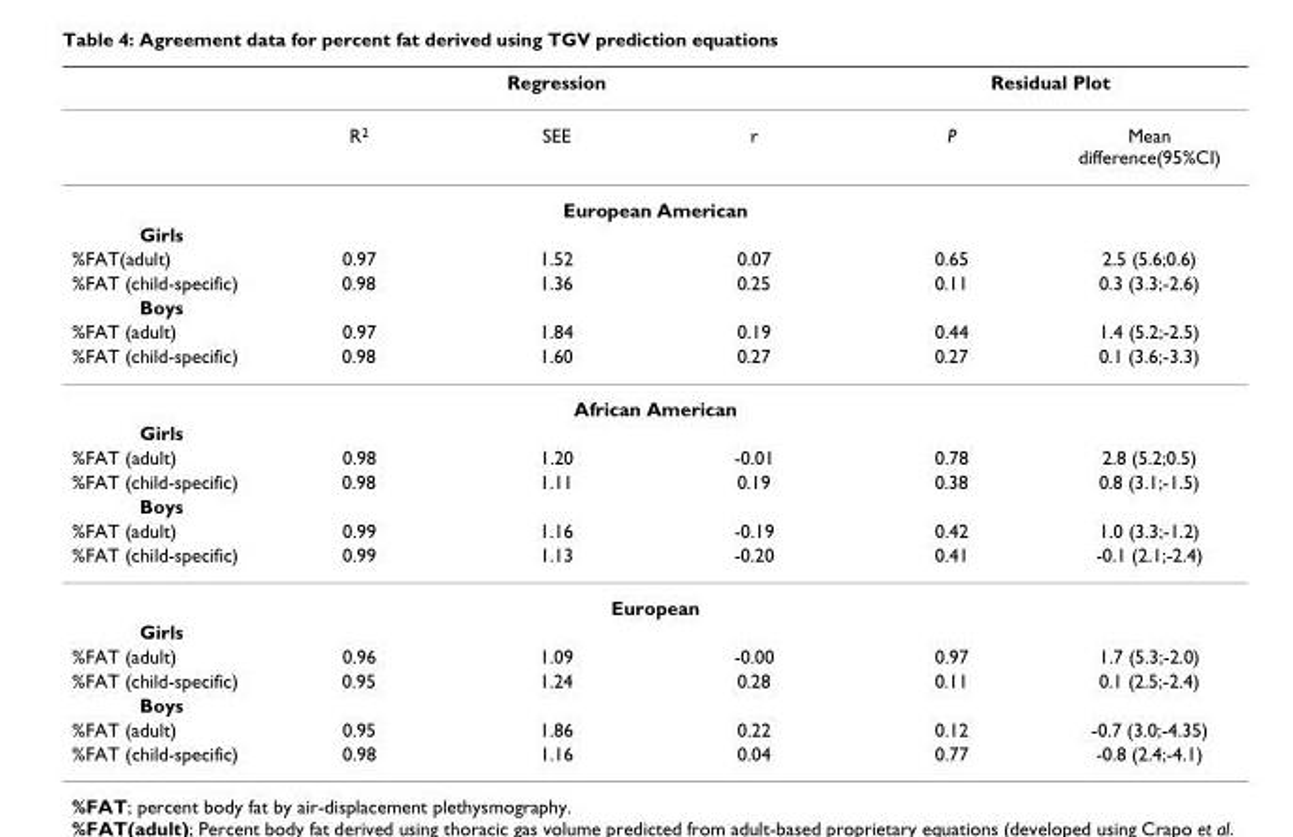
<table><thead><tr><td rowspan="2"></td><td colspan="3">Regression</td><td colspan="2">Residual Plot</td></tr><tr><td>R<sup>2</sup></td><td>SEE</td><td>r</td><td>P</td><td>Mean difference(95%CI)</td></tr></thead><tbody><tr><td colspan="6">European American</td></tr><tr><td colspan="6">Girls</td></tr><tr><td>%FAT(adult)</td><td>0.97</td><td>1.52</td><td>0.07</td><td>0.65</td><td>2.5 (5.6;0.6)</td></tr><tr><td>%FAT (child-specific)</td><td>0.98</td><td>1.36</td><td>0.25</td><td>0.11</td><td>0.3 (3.3;-2.6)</td></tr><tr><td colspan="6">Boys</td></tr><tr><td>%FAT (adult)</td><td>0.97</td><td>1.84</td><td>0.19</td><td>0.44</td><td>1.4 (5.2;-2.5)</td></tr><tr><td>%FAT (child-specific)</td><td>0.98</td><td>1.60</td><td>0.27</td><td>0.27</td><td>0.1 (3.6;-3.3)</td></tr><tr><td colspan="6">African American</td></tr><tr><td colspan="6">Girls</td></tr><tr><td>%FAT (adult)</td><td>0.98</td><td>1.20</td><td>-0.01</td><td>0.78</td><td>2.8 (5.2;0.5)</td></tr><tr><td>%FAT (child-specific)</td><td>0.98</td><td>1.11</td><td>0.19</td><td>0.38</td><td>0.8 (3.1;-1.5)</td></tr><tr><td colspan="6">Boys</td></tr><tr><td>%FAT (adult)</td><td>0.99</td><td>1.16</td><td>-0.19</td><td>0.42</td><td>1.0 (3.3;-1.2)</td></tr><tr><td>%FAT (child-specific)</td><td>0.99</td><td>1.13</td><td>-0.20</td><td>0.41</td><td>-0.1 (2.1;-2.4)</td></tr><tr><td colspan="6">European</td></tr><tr><td colspan="6">Girls</td></tr><tr><td>%FAT (adult)</td><td>0.96</td><td>1.09</td><td>-0.00</td><td>0.97</td><td>1.7 (5.3;-2.0)</td></tr><tr><td>%FAT (child-specific)</td><td>0.95</td><td>1.24</td><td>0.28</td><td>0.11</td><td>0.1 (2.5;-2.4)</td></tr><tr><td colspan="6">Boys</td></tr><tr><td>%FAT (adult)</td><td>0.95</td><td>1.86</td><td>0.22</td><td>0.12</td><td>-0.7 (3.0;-4.35)</td></tr><tr><td>%FAT (child-specific)</td><td>0.98</td><td>1.16</td><td>0.04</td><td>0.77</td><td>-0.8 (2.4;-4.1)</td></tr></tbody></table>